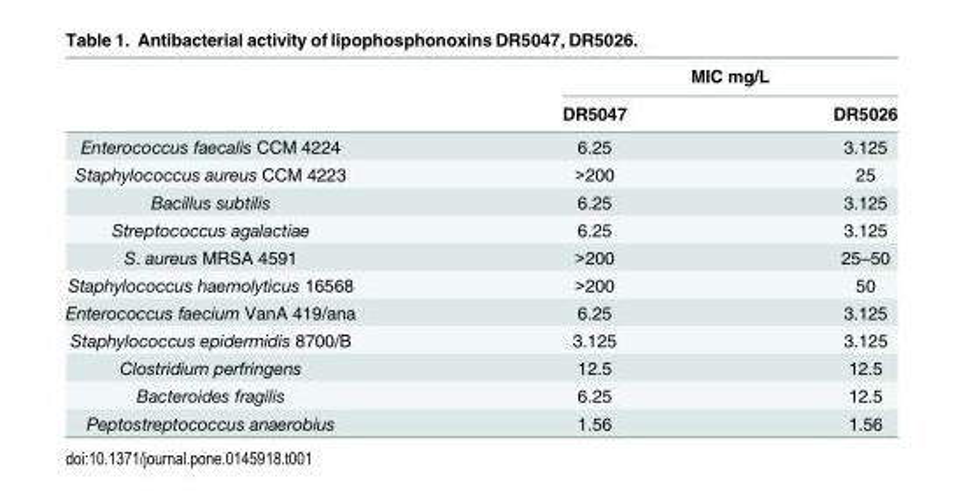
<table><thead><tr><td rowspan="2"></td><td colspan="2">MIC mg/L</td></tr><tr><td>DR5047</td><td>DR5026</td></tr></thead><tbody><tr><td>Enterococcus faecalis CCM 4224</td><td>6.25</td><td>3.125</td></tr><tr><td>Staphylococcus aureus CCM 4223</td><td>&gt;200</td><td>25</td></tr><tr><td>Bacillus subtilis</td><td>6.25</td><td>3.125</td></tr><tr><td>Streptococcus agalactiae</td><td>6.25</td><td>3.125</td></tr><tr><td>S. aureus MRSA 4591</td><td>&gt;200</td><td>25–50</td></tr><tr><td>Staphylococcus haemolyticus 16568</td><td>&gt;200</td><td>50</td></tr><tr><td>Enterococcus faecium VanA 419/ana</td><td>6.25</td><td>3.125</td></tr><tr><td>Staphylococcus epidermidis 8700/B</td><td>3.125</td><td>3.125</td></tr><tr><td>Clostridium perfringens</td><td>12.5</td><td>12.5</td></tr><tr><td>Bacteroides fragilis</td><td>6.25</td><td>12.5</td></tr><tr><td>Peptostreptococcus anaerobius</td><td>1.56</td><td>1.56</td></tr></tbody></table>